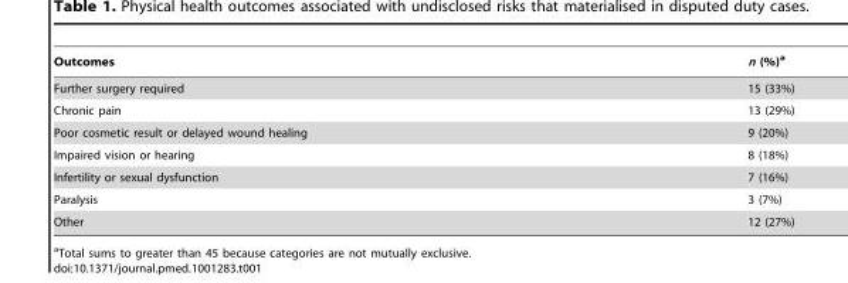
<table><thead><tr><td>Outcomes</td><td>n (%)<sup>a</sup></td></tr></thead><tbody><tr><td>Further surgery required</td><td>15 (33%)</td></tr><tr><td>Chronic pain</td><td>13 (29%)</td></tr><tr><td>Poor cosmetic result or delayed wound healing</td><td>9 (20%)</td></tr><tr><td>Impaired vision or hearing</td><td>8 (18%)</td></tr><tr><td>Infertility or sexual dysfunction</td><td>7 (16%)</td></tr><tr><td>Paralysis</td><td>3 (7%)</td></tr><tr><td>Other</td><td>12 (27%)</td></tr></tbody></table>